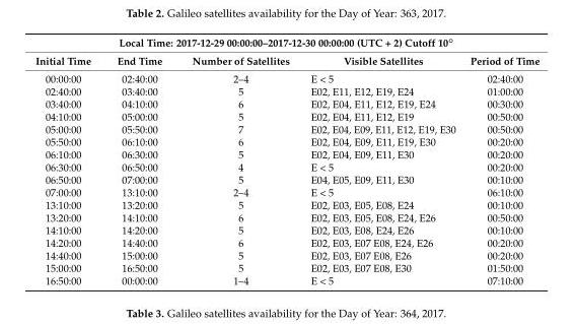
<table><thead><tr><td colspan="5">Local Time: 2017-12-29 00:00:00–2017-12-30 00:00:00 (UTC + 2) Cutoff 10◦</td></tr><tr><td>Initial Time</td><td>End Time</td><td>Number of Satellites</td><td>Visible Satellites</td><td>Period of Time</td></tr></thead><tbody><tr><td>00:00:00</td><td>02:40:00</td><td>2–4</td><td>E &lt; 5</td><td>02:40:00</td></tr><tr><td>02:40:00</td><td>03:40:00</td><td>5</td><td>E02, E11, E12, E19, E24</td><td>01:00:00</td></tr><tr><td>03:40:00</td><td>04:10:00</td><td>6</td><td>E02, E04, E11, E12, E19, E24</td><td>00:30:00</td></tr><tr><td>04:10:00</td><td>05:00:00</td><td>5</td><td>E02, E04, E11, E12, E19</td><td>00:50:00</td></tr><tr><td>05:00:00</td><td>05:50:00</td><td>7</td><td>E02, E04, E09, E11, E12, E19, E30</td><td>00:50:00</td></tr><tr><td>05:50:00</td><td>06:10:00</td><td>6</td><td>E02, E04, E09, E11, E19, E30</td><td>00:20:00</td></tr><tr><td>06:10:00</td><td>06:30:00</td><td>5</td><td>E02, E04, E09, E11, E30</td><td>00:20:00</td></tr><tr><td>06:30:00</td><td>06:50:00</td><td>4</td><td>E &lt; 5</td><td>00:20:00</td></tr><tr><td>06:50:00</td><td>07:00:00</td><td>5</td><td>E04, E05, E09, E11, E30</td><td>00:10:00</td></tr><tr><td>07:00:00</td><td>13:10:00</td><td>2–4</td><td>E &lt; 5</td><td>06:10:00</td></tr><tr><td>13:10:00</td><td>13:20:00</td><td>5</td><td>E02, E03, E05, E08, E24</td><td>00:10:00</td></tr><tr><td>13:20:00</td><td>14:10:00</td><td>6</td><td>E02, E03, E05, E08, E24, E26</td><td>00:50:00</td></tr><tr><td>14:10:00</td><td>14:20:00</td><td>5</td><td>E02, E03, E08, E24, E26</td><td>00:10:00</td></tr><tr><td>14:20:00</td><td>14:40:00</td><td>6</td><td>E02, E03, E07 E08, E24, E26</td><td>00:20:00</td></tr><tr><td>14:40:00</td><td>15:00:00</td><td>5</td><td>E02, E03, E07 E08, E26</td><td>00:20:00</td></tr><tr><td>15:00:00</td><td>16:50:00</td><td>5</td><td>E02, E03, E07 E08, E30</td><td>01:50:00</td></tr><tr><td>16:50:00</td><td>00:00:00</td><td>1–4</td><td>E &lt; 5</td><td>07:10:00</td></tr></tbody></table>